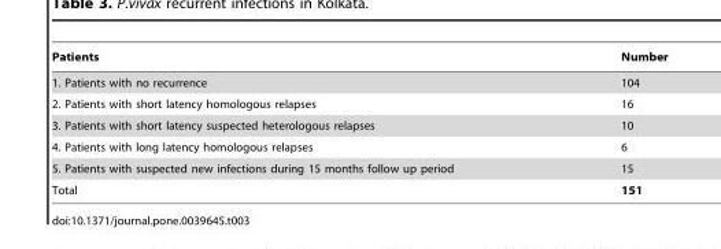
<table><thead><tr><td>Patients</td><td>Number</td></tr></thead><tbody><tr><td>1. Patients with no recurrence</td><td>104</td></tr><tr><td>2. Patients with short latency homologous relapses</td><td>16</td></tr><tr><td>3. Patients with short latency suspected heterologous relapses</td><td>10</td></tr><tr><td>4. Patients with long latency homologous relapses</td><td>6</td></tr><tr><td>5. Patients with suspected new infections during 15 months follow up period</td><td>15</td></tr><tr><td>Total</td><td>151</td></tr></tbody></table>